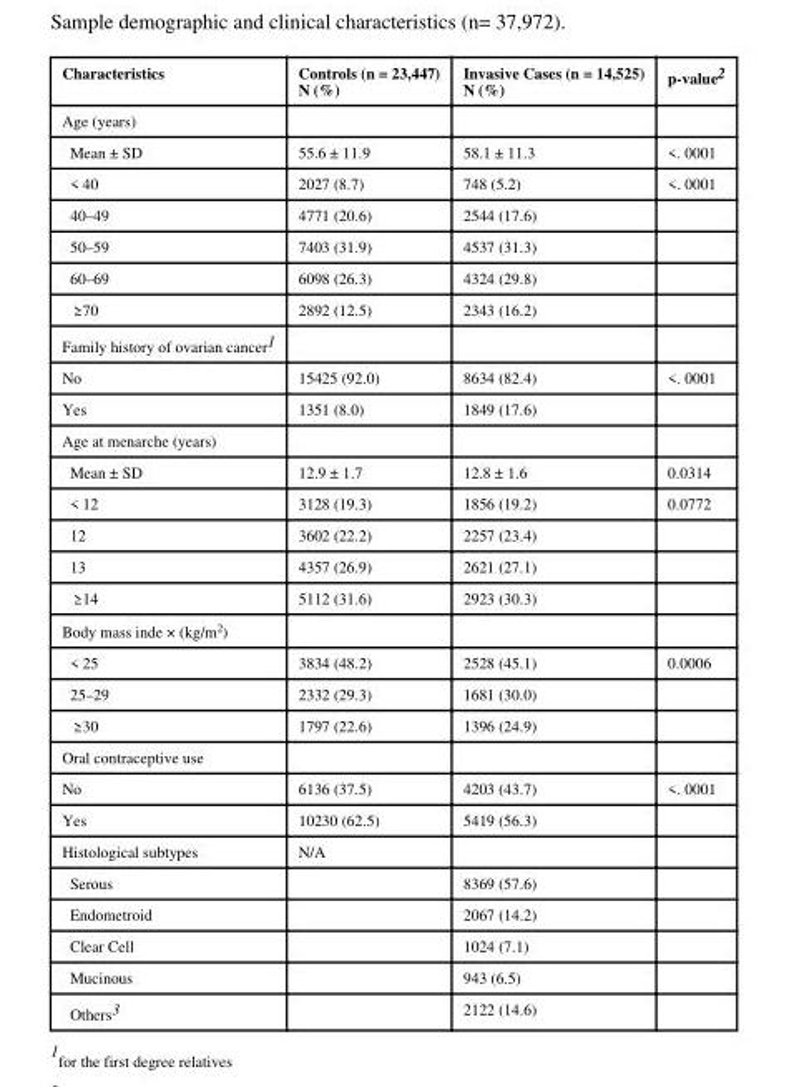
<table><thead><tr><td>Characteristics</td><td>Controls (n = 23,447) N (%)</td><td>Invasive Cases (n = 14,525) N (%)</td><td>p-value<sup>2</sup></td></tr></thead><tbody><tr><td colspan="4">Age (years)</td></tr><tr><td>Mean ± SD</td><td>55.6 ± 11.9</td><td>58.1 ± 11.3</td><td>&lt;. 0001</td></tr><tr><td>&lt; 40</td><td>2027 (8.7)</td><td>748 (5.2)</td><td>&lt;. 0001</td></tr><tr><td>40–49</td><td>4771 (20.6)</td><td>2544 (17.6)</td><td></td></tr><tr><td>50–59</td><td>7403 (31.9)</td><td>4537 (31.3)</td><td></td></tr><tr><td>60–69</td><td>6098 (26.3)</td><td>4324 (29.8)</td><td></td></tr><tr><td>≥ 70</td><td>2892 (12.5)</td><td>2343 (16.2)</td><td></td></tr><tr><td colspan="4">Family history of ovarian cancer<sup>1</sup></td></tr><tr><td>No</td><td>15425 (92.0)</td><td>8634 (82.4)</td><td>&lt;. 0001</td></tr><tr><td>Yes</td><td>1351 (8.0)</td><td>1849 (17.6)</td><td></td></tr><tr><td colspan="4">Age at menarche (years)</td></tr><tr><td>Mean ± SD</td><td>12.9 ± 1.7</td><td>12.8 ± 1.6</td><td>0.0314</td></tr><tr><td>&lt; 12</td><td>3128 (19.3)</td><td>1856 (19.2)</td><td>0.0772</td></tr><tr><td>12</td><td>3602 (22.2)</td><td>2257 (23.4)</td><td></td></tr><tr><td>13</td><td>4357 (26.9)</td><td>2621 (27.1)</td><td></td></tr><tr><td>≥ 14</td><td>5112 (31.6)</td><td>2923 (30.3)</td><td></td></tr><tr><td colspan="4">Body mass inde × (kg/m<sup>2</sup>)</td></tr><tr><td>&lt; 25</td><td>3834 (48.2)</td><td>2528 (45.1)</td><td>0.0006</td></tr><tr><td>25–29</td><td>2332 (29.3)</td><td>1681 (30.0)</td><td></td></tr><tr><td>≥ 30</td><td>1797 (22.6)</td><td>1396 (24.9)</td><td></td></tr><tr><td colspan="4">Oral contraceptive use</td></tr><tr><td>No</td><td>6136 (37.5)</td><td>4203 (43.7)</td><td>&lt;. 0001</td></tr><tr><td>Yes</td><td>10230 (62.5)</td><td>5419 (56.3)</td><td></td></tr><tr><td>Histological subtypes</td><td>N/A</td><td></td><td></td></tr><tr><td>Serous</td><td></td><td>8369 (57.6)</td><td></td></tr><tr><td>Endometroid</td><td></td><td>2067 (14.2)</td><td></td></tr><tr><td>Clear Cell</td><td></td><td>1024 (7.1)</td><td></td></tr><tr><td>Mucinous</td><td></td><td>943 (6.5)</td><td></td></tr><tr><td>Others<sup>3</sup></td><td></td><td>2122 (14.6)</td><td></td></tr></tbody></table>